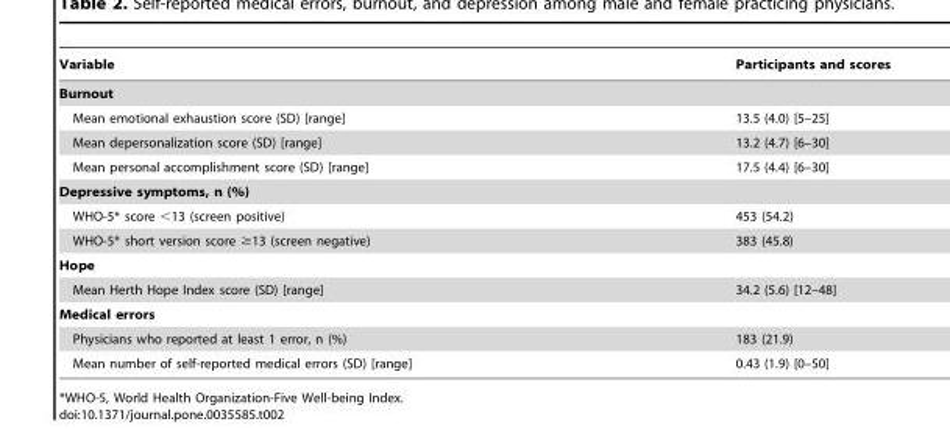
<table><thead><tr><td>Variable</td><td>Participants and scores</td></tr></thead><tbody><tr><td colspan="2">Burnout</td></tr><tr><td>Mean emotional exhaustion score (SD) [range]</td><td>13.5 (4.0) [5–25]</td></tr><tr><td>Mean depersonalization score (SD) [range]</td><td>13.2 (4.7) [6–30]</td></tr><tr><td>Mean personal accomplishment score (SD) [range]</td><td>17.5 (4.4) [6–30]</td></tr><tr><td colspan="2">Depressive symptoms, n (%)</td></tr><tr><td>WHO-5* score &lt;13 (screen positive)</td><td>453 (54.2)</td></tr><tr><td>WHO-5* short version score ≥13 (screen negative)</td><td>383 (45.8)</td></tr><tr><td colspan="2">Hope</td></tr><tr><td>Mean Herth Hope Index score (SD) [range]</td><td>34.2 (5.6) [12–48]</td></tr><tr><td colspan="2">Medical errors</td></tr><tr><td>Physicians who reported at least 1 error, n (%)</td><td>183 (21.9)</td></tr><tr><td>Mean number of self-reported medical errors (SD) [range]</td><td>0.43 (1.9) [0–50]</td></tr></tbody></table>